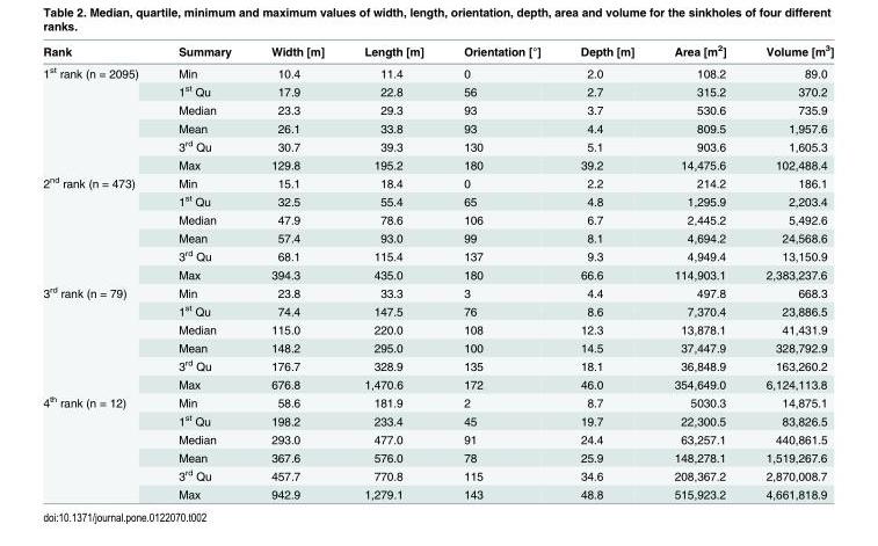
<table><thead><tr><td>Rank</td><td>Summary</td><td>Width [m]</td><td>Length [m]</td><td>Orientation [°]</td><td>Depth [m]</td><td>Area [m<sup>2</sup>]</td><td>Volume [m<sup>3</sup>]</td></tr></thead><tbody><tr><td rowspan="6">1<sup>st</sup> rank (n = 2095)</td><td>Min</td><td>10.4</td><td>11.4</td><td>0</td><td>2.0</td><td>108.2</td><td>89.0</td></tr><tr><td>1<sup>st</sup> Qu</td><td>17.9</td><td>22.8</td><td>56</td><td>2.7</td><td>315.2</td><td>370.2</td></tr><tr><td>Median</td><td>23.3</td><td>29.3</td><td>93</td><td>3.7</td><td>530.6</td><td>735.9</td></tr><tr><td>Mean</td><td>26.1</td><td>33.8</td><td>93</td><td>4.4</td><td>809.5</td><td>1,957.6</td></tr><tr><td>3<sup>rd</sup> Qu</td><td>30.7</td><td>39.3</td><td>130</td><td>5.1</td><td>903.6</td><td>1,605.3</td></tr><tr><td>Max</td><td>129.8</td><td>195.2</td><td>180</td><td>39.2</td><td>14,475.6</td><td>102,488.4</td></tr><tr><td rowspan="6">2<sup>nd</sup> rank (n = 473)</td><td>Min</td><td>15.1</td><td>18.4</td><td>0</td><td>2.2</td><td>214.2</td><td>186.1</td></tr><tr><td>1<sup>st</sup> Qu</td><td>32.5</td><td>55.4</td><td>65</td><td>4.8</td><td>1,295.9</td><td>2,203.4</td></tr><tr><td>Median</td><td>47.9</td><td>78.6</td><td>106</td><td>6.7</td><td>2,445.2</td><td>5,492.6</td></tr><tr><td>Mean</td><td>57.4</td><td>93.0</td><td>99</td><td>8.1</td><td>4,694.2</td><td>24,568.6</td></tr><tr><td>3<sup>rd</sup> Qu</td><td>68.1</td><td>115.4</td><td>137</td><td>9.3</td><td>4,949.4</td><td>13,150.9</td></tr><tr><td>Max</td><td>394.3</td><td>435.0</td><td>180</td><td>66.6</td><td>114,903.1</td><td>2,383,237.6</td></tr><tr><td rowspan="6">3<sup>rd</sup> rank (n = 79)</td><td>Min</td><td>23.8</td><td>33.3</td><td>3</td><td>4.4</td><td>497.8</td><td>668.3</td></tr><tr><td>1<sup>st</sup> Qu</td><td>74.4</td><td>147.5</td><td>76</td><td>8.6</td><td>7,370.4</td><td>23,886.5</td></tr><tr><td>Median</td><td>115.0</td><td>220.0</td><td>108</td><td>12.3</td><td>13,878.1</td><td>41,431.9</td></tr><tr><td>Mean</td><td>148.2</td><td>295.0</td><td>100</td><td>14.5</td><td>37,447.9</td><td>328,792.9</td></tr><tr><td>3<sup>rd</sup> Qu</td><td>176.7</td><td>328.9</td><td>135</td><td>18.1</td><td>36,848.9</td><td>163,260.2</td></tr><tr><td>Max</td><td>676.8</td><td>1,470.6</td><td>172</td><td>46.0</td><td>354,649.0</td><td>6,124,113.8</td></tr><tr><td rowspan="6">4<sup>th</sup> rank (n = 12)</td><td>Min</td><td>58.6</td><td>181.9</td><td>2</td><td>8.7</td><td>5030.3</td><td>14,875.1</td></tr><tr><td>1<sup>st</sup> Qu</td><td>198.2</td><td>233.4</td><td>45</td><td>19.7</td><td>22,300.5</td><td>83,826.5</td></tr><tr><td>Median</td><td>293.0</td><td>477.0</td><td>91</td><td>24.4</td><td>63,257.1</td><td>440,861.5</td></tr><tr><td>Mean</td><td>367.6</td><td>576.0</td><td>78</td><td>25.9</td><td>148,278.1</td><td>1,519,267.6</td></tr><tr><td>3<sup>rd</sup> Qu</td><td>457.7</td><td>770.8</td><td>115</td><td>34.6</td><td>208,367.2</td><td>2,870,008.7</td></tr><tr><td>Max</td><td>942.9</td><td>1,279.1</td><td>143</td><td>48.8</td><td>515,923.2</td><td>4,661,818.9</td></tr></tbody></table>